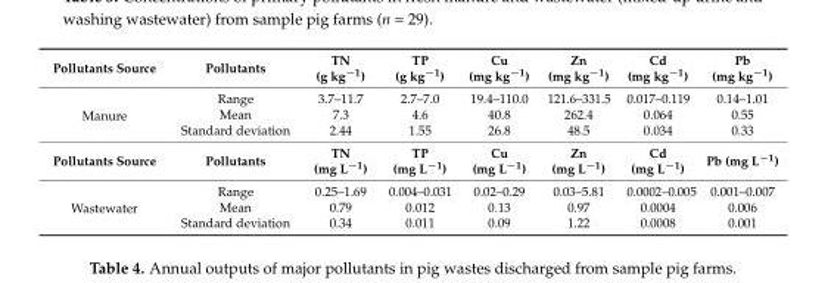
<table><tbody><tr><td>Pollutants Source</td><td>Pollutants</td><td>TN (g kg<sup>−1</sup>)</td><td>TP (g kg<sup>−1</sup>)</td><td>Cu (mg kg<sup>−1</sup>)</td><td>Zn (mg kg<sup>−1</sup>)</td><td>Cd (mg kg<sup>−1</sup>)</td><td>Pb (mg kg<sup>−1</sup>)</td></tr><tr><td rowspan="3">Manure</td><td>Range</td><td>3.7–11.7</td><td>2.7–7.0</td><td>19.4–110.0</td><td>121.6–331.5</td><td>0.017–0.119</td><td>0.14–1.01</td></tr><tr><td>Mean</td><td>7.3</td><td>4.6</td><td>40.8</td><td>262.4</td><td>0.064</td><td>0.55</td></tr><tr><td>Standard deviation</td><td>2.44</td><td>1.55</td><td>26.8</td><td>48.5</td><td>0.034</td><td>0.33</td></tr><tr><td>Pollutants Source</td><td>Pollutants</td><td>TN (mg L<sup>−1</sup>)</td><td>TP (mg L<sup>−1</sup>)</td><td>Cu (mg L<sup>−1</sup>)</td><td>Zn (mg L<sup>−1</sup>)</td><td>Cd (mg L<sup>−1</sup>)</td><td>Pb (mg L<sup>−1</sup>)</td></tr><tr><td rowspan="3">Wastewater</td><td>Range</td><td>0.25–1.69</td><td>0.004–0.031</td><td>0.02–0.29</td><td>0.03–5.81</td><td>0.0002–0.005</td><td>0.001–0.007</td></tr><tr><td>Mean</td><td>0.79</td><td>0.012</td><td>0.13</td><td>0.97</td><td>0.0004</td><td>0.006</td></tr><tr><td>Standard deviation</td><td>0.34</td><td>0.011</td><td>0.09</td><td>1.22</td><td>0.0008</td><td>0.001</td></tr></tbody></table>